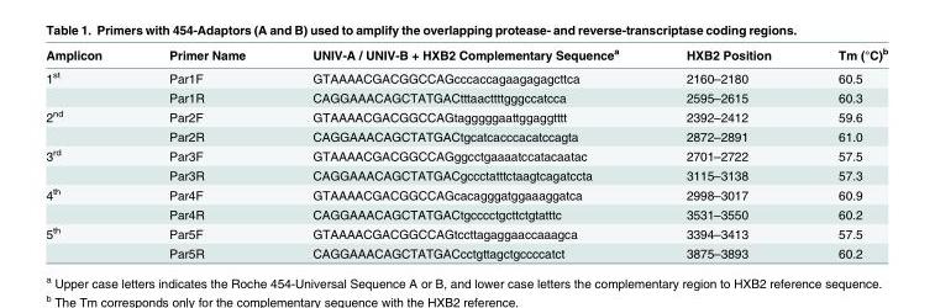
<table><thead><tr><td>Amplicon</td><td>Primer Name</td><td>UNIV-A / UNIV-B + HXB2 Complementary Sequence<sup>a</sup></td><td>HXB2 Position</td><td>Tm (°C)<sup>b</sup></td></tr></thead><tbody><tr><td rowspan="2">1<sup>st</sup></td><td>Par1F</td><td>GTAAAACGACGGCCAGcccaccagaagagagcttca</td><td>2160–2180</td><td>60.5</td></tr><tr><td>Par1R</td><td>CAGGAAACAGCTATGACtttaacttttgggccatcca</td><td>2595–2615</td><td>60.3</td></tr><tr><td rowspan="2">2<sup>nd</sup></td><td>Par2F</td><td>GTAAAACGACGGCCAGtagggggaattggaggtttt</td><td>2392–2412</td><td>59.6</td></tr><tr><td>Par2R</td><td>CAGGAAACAGCTATGACtgcatcacccacatccagta</td><td>2872–2891</td><td>61.0</td></tr><tr><td rowspan="2">3<sup>rd</sup></td><td>Par3F</td><td>GTAAAACGACGGCCAGggcctgaaaatccatacaatac</td><td>2701–2722</td><td>57.5</td></tr><tr><td>Par3R</td><td>CAGGAAACAGCTATGACgccctatttctaagtcagatccta</td><td>3115–3138</td><td>57.3</td></tr><tr><td rowspan="2">4<sup>th</sup></td><td>Par4F</td><td>GTAAAACGACGGCCAGcacagggatggaaaggatca</td><td>2998–3017</td><td>60.9</td></tr><tr><td>Par4R</td><td>CAGGAAACAGCTATGACtgcccctgcttctgtatttc</td><td>3531–3550</td><td>60.2</td></tr><tr><td rowspan="2">5<sup>th</sup></td><td>Par5F</td><td>GTAAAACGACGGCCAGtccttagaggaaccaaagca</td><td>3394–3413</td><td>57.5</td></tr><tr><td>Par5R</td><td>CAGGAAACAGCTATGACcctgttagctgccccatct</td><td>3875–3893</td><td>60.2</td></tr></tbody></table>